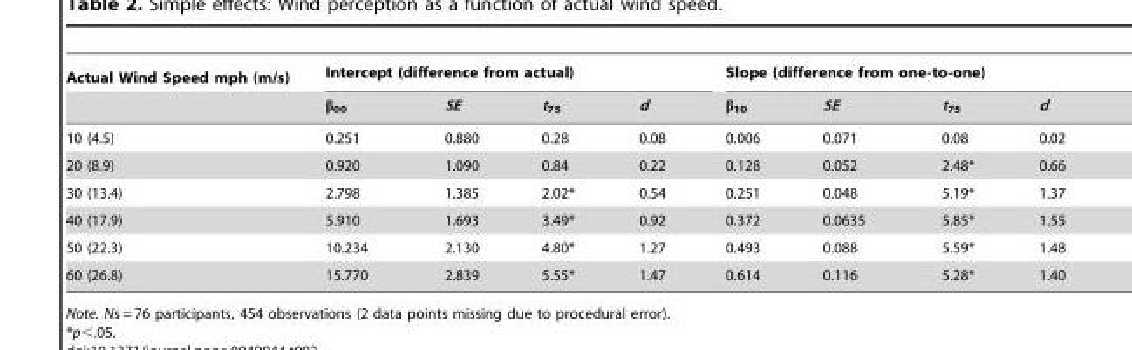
<table><thead><tr><td rowspan="2">Actual Wind Speed mph (m/s)</td><td colspan="4">Intercept (difference from actual)</td><td colspan="4">Slope (difference from one-to-one)</td></tr><tr><td>β<sub>00</sub></td><td>SE</td><td>t<sub>75</sub></td><td>d</td><td>β<sub>10</sub></td><td>SE</td><td>t<sub>75</sub></td><td>d</td></tr></thead><tbody><tr><td>10 (4.5)</td><td>0.251</td><td>0.880</td><td>0.28</td><td>0.08</td><td>0.006</td><td>0.071</td><td>0.08</td><td>0.02</td></tr><tr><td>20 (8.9)</td><td>0.920</td><td>1.090</td><td>0.84</td><td>0.22</td><td>0.128</td><td>0.052</td><td>2.48*</td><td>0.66</td></tr><tr><td>30 (13.4)</td><td>2.798</td><td>1.385</td><td>2.02*</td><td>0.54</td><td>0.251</td><td>0.048</td><td>5.19*</td><td>1.37</td></tr><tr><td>40 (17.9)</td><td>5.910</td><td>1.693</td><td>3.49*</td><td>0.92</td><td>0.372</td><td>0.0635</td><td>5.85*</td><td>1.55</td></tr><tr><td>50 (22.3)</td><td>10.234</td><td>2.130</td><td>4.80*</td><td>1.27</td><td>0.493</td><td>0.088</td><td>5.59*</td><td>1.48</td></tr><tr><td>60 (26.8)</td><td>15.770</td><td>2.839</td><td>5.55*</td><td>1.47</td><td>0.614</td><td>0.116</td><td>5.28*</td><td>1.40</td></tr></tbody></table>